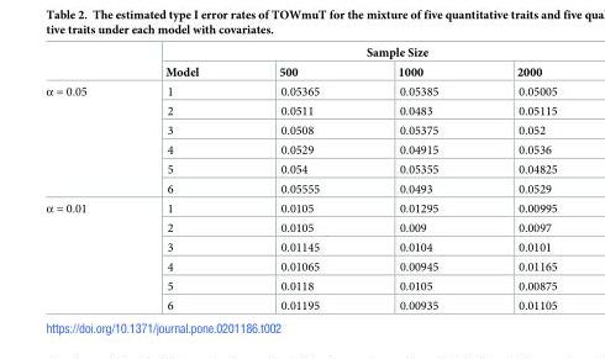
<table><thead><tr><td rowspan="2"></td><td colspan="4">Sample Size</td></tr><tr><td>Model</td><td>500</td><td>1000</td><td>2000</td></tr></thead><tbody><tr><td rowspan="6">α = 0.05</td><td>1</td><td>0.05365</td><td>0.05385</td><td>0.05005</td></tr><tr><td>2</td><td>0.0511</td><td>0.0483</td><td>0.05115</td></tr><tr><td>3</td><td>0.0508</td><td>0.05375</td><td>0.052</td></tr><tr><td>4</td><td>0.0529</td><td>0.04915</td><td>0.0536</td></tr><tr><td>5</td><td>0.054</td><td>0.05355</td><td>0.04825</td></tr><tr><td>6</td><td>0.05555</td><td>0.0493</td><td>0.0529</td></tr><tr><td rowspan="6">α = 0.01</td><td>1</td><td>0.0105</td><td>0.01295</td><td>0.00995</td></tr><tr><td>2</td><td>0.0105</td><td>0.009</td><td>0.0097</td></tr><tr><td>3</td><td>0.01145</td><td>0.0104</td><td>0.0101</td></tr><tr><td>4</td><td>0.01065</td><td>0.00945</td><td>0.01165</td></tr><tr><td>5</td><td>0.0118</td><td>0.0105</td><td>0.00875</td></tr><tr><td>6</td><td>0.01195</td><td>0.00935</td><td>0.01105</td></tr></tbody></table>